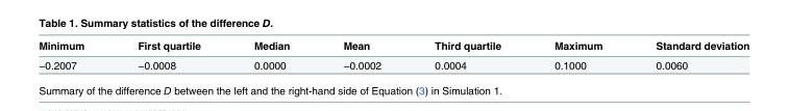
<table><thead><tr><td>Minimum</td><td>First quartile</td><td>Median</td><td>Mean</td><td>Third quartile</td><td>Maximum</td><td>Standard deviation</td></tr></thead><tbody><tr><td>−0.2007</td><td>−0.0008</td><td>0.0000</td><td>−0.0002</td><td>0.0004</td><td>0.1000</td><td>0.0060</td></tr></tbody></table>